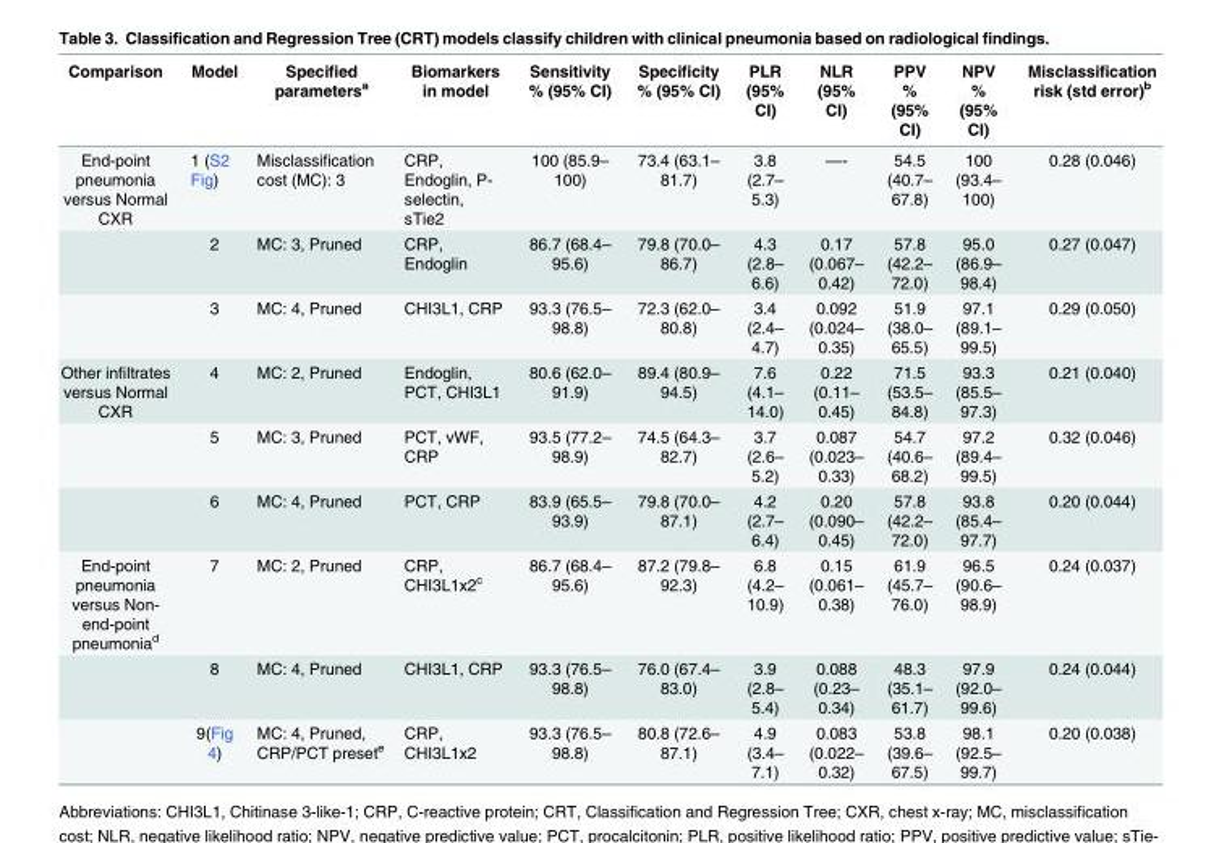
<table><thead><tr><td>Comparison</td><td>Model</td><td>Specified parameters<sup>a</sup></td><td>Biomarkers in model</td><td>Sensitivity % (95% CI)</td><td>Specificity % (95% CI)</td><td>PLR (95% CI)</td><td>NLR (95% CI)</td><td>PPV % (95% CI)</td><td>NPV % (95% CI)</td><td>Misclassification risk (std error)<sup>b</sup></td></tr></thead><tbody><tr><td rowspan="3">End-point pneumonia versus Normal CXR</td><td>1 (S2 Fig)</td><td>Misclassification cost (MC): 3</td><td>CRP, Endoglin, P- selectin, sTie2</td><td>100 (85.9– 100)</td><td>73.4 (63.1– 81.7)</td><td>3.8 (2.7– 5.3)</td><td>—-</td><td>54.5 (40.7– 67.8)</td><td>100 (93.4– 100)</td><td>0.28 (0.046)</td></tr><tr><td>2</td><td>MC: 3, Pruned</td><td>CRP, Endoglin</td><td>86.7 (68.4– 95.6)</td><td>79.8 (70.0– 86.7)</td><td>4.3 (2.8– 6.6)</td><td>0.17 (0.067– 0.42)</td><td>57.8 (42.2– 72.0)</td><td>95.0 (86.9– 98.4)</td><td>0.27 (0.047)</td></tr><tr><td>3</td><td>MC: 4, Pruned</td><td>CHI3L1, CRP</td><td>93.3 (76.5– 98.8)</td><td>72.3 (62.0– 80.8)</td><td>3.4 (2.4– 4.7)</td><td>0.092 (0.024– 0.35)</td><td>51.9 (38.0– 65.5)</td><td>97.1 (89.1– 99.5)</td><td>0.29 (0.050)</td></tr><tr><td rowspan="3">Other infiltrates versus Normal CXR</td><td>4</td><td>MC: 2, Pruned</td><td>Endoglin, PCT, CHI3L1</td><td>80.6 (62.0– 91.9)</td><td>89.4 (80.9– 94.5)</td><td>7.6 (4.1– 14.0)</td><td>0.22 (0.11– 0.45)</td><td>71.5 (53.5– 84.8)</td><td>93.3 (85.5– 97.3)</td><td>0.21 (0.040)</td></tr><tr><td>5</td><td>MC: 3, Pruned</td><td>PCT, vWF, CRP</td><td>93.5 (77.2– 98.9)</td><td>74.5 (64.3– 82.7)</td><td>3.7 (2.6– 5.2)</td><td>0.087 (0.023– 0.33)</td><td>54.7 (40.6– 68.2)</td><td>97.2 (89.4– 99.5)</td><td>0.32 (0.046)</td></tr><tr><td>6</td><td>MC: 4, Pruned</td><td>PCT, CRP</td><td>83.9 (65.5– 93.9)</td><td>79.8 (70.0– 87.1)</td><td>4.2 (2.7– 6.4)</td><td>0.20 (0.090– 0.45)</td><td>57.8 (42.2– 72.0)</td><td>93.8 (85.4– 97.7)</td><td>0.20 (0.044)</td></tr><tr><td rowspan="3">End-point pneumonia versus Non- end-point pneumonia<sup>d</sup></td><td>7</td><td>MC: 2, Pruned</td><td>CRP, CHI3L1x2<sup>c</sup></td><td>86.7 (68.4– 95.6)</td><td>87.2 (79.8– 92.3)</td><td>6.8 (4.2– 10.9)</td><td>0.15 (0.061– 0.38)</td><td>61.9 (45.7– 76.0)</td><td>96.5 (90.6– 98.9)</td><td>0.24 (0.037)</td></tr><tr><td>8</td><td>MC: 4, Pruned</td><td>CHI3L1, CRP</td><td>93.3 (76.5– 98.8)</td><td>76.0 (67.4– 83.0)</td><td>3.9 (2.8– 5.4)</td><td>0.088 (0.23– 0.34)</td><td>48.3 (35.1– 61.7)</td><td>97.9 (92.0– 99.6)</td><td>0.24 (0.044)</td></tr><tr><td>9(Fig 4)</td><td>MC: 4, Pruned, CRP/PCT preset<sup>e</sup></td><td>CRP, CHI3L1x2</td><td>93.3 (76.5– 98.8)</td><td>80.8 (72.6– 87.1)</td><td>4.9 (3.4– 7.1)</td><td>0.083 (0.022– 0.32)</td><td>53.8 (39.6– 67.5)</td><td>98.1 (92.5– 99.7)</td><td>0.20 (0.038)</td></tr></tbody></table>